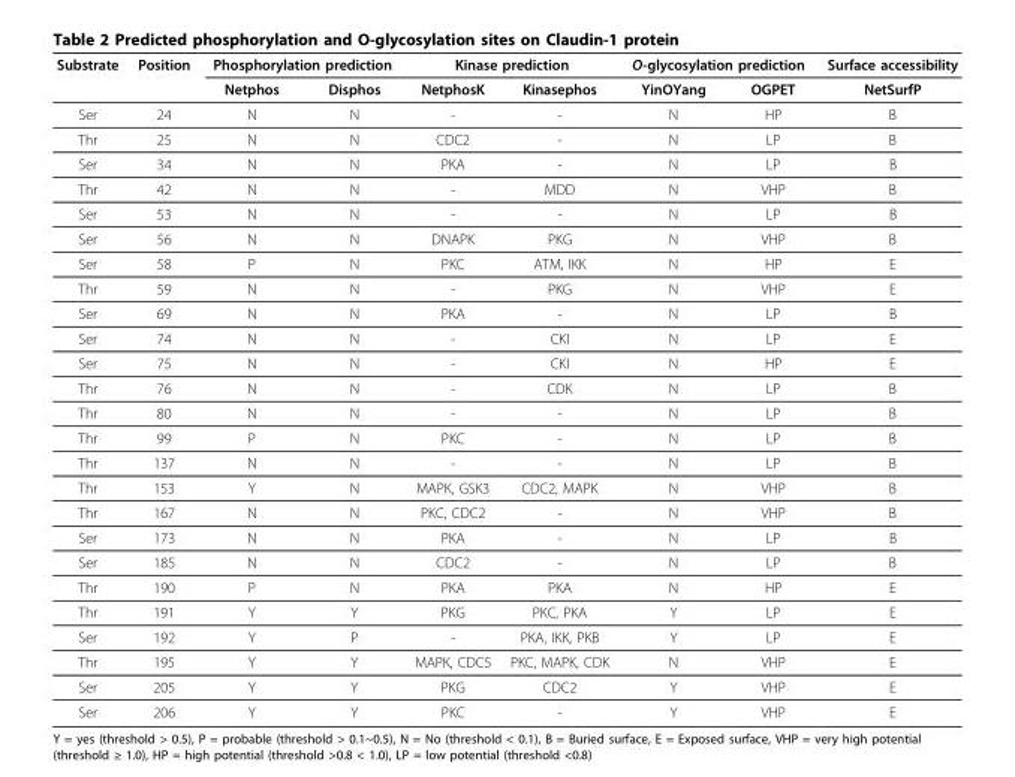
<table><thead><tr><td rowspan="2">Substrate</td><td rowspan="2">Position</td><td colspan="2">Phosphorylation prediction</td><td colspan="2">Kinase prediction</td><td colspan="2">O-glycosylation prediction</td><td rowspan="2">Surface accessibility NetSurfP</td></tr><tr><td>Netphos</td><td>Disphos</td><td>NetphosK</td><td>Kinasephos</td><td>YinOYang</td><td>OGPET</td></tr></thead><tbody><tr><td>Ser</td><td>24</td><td>N</td><td>N</td><td>-</td><td>-</td><td>N</td><td>HP</td><td>B</td></tr><tr><td>Thr</td><td>25</td><td>N</td><td>N</td><td>CDC2</td><td>-</td><td>N</td><td>LP</td><td>B</td></tr><tr><td>Ser</td><td>34</td><td>N</td><td>N</td><td>PKA</td><td>-</td><td>N</td><td>LP</td><td>B</td></tr><tr><td>Thr</td><td>42</td><td>N</td><td>N</td><td>-</td><td>MDD</td><td>N</td><td>VHP</td><td>B</td></tr><tr><td>Ser</td><td>53</td><td>N</td><td>N</td><td>-</td><td>-</td><td>N</td><td>LP</td><td>B</td></tr><tr><td>Ser</td><td>56</td><td>N</td><td>N</td><td>DNAPK</td><td>PKG</td><td>N</td><td>VHP</td><td>B</td></tr><tr><td>Ser</td><td>58</td><td>P</td><td>N</td><td>PKC</td><td>ATM, IKK</td><td>N</td><td>HP</td><td>E</td></tr><tr><td>Thr</td><td>59</td><td>N</td><td>N</td><td>-</td><td>PKG</td><td>N</td><td>VHP</td><td>E</td></tr><tr><td>Ser</td><td>69</td><td>N</td><td>N</td><td>PKA</td><td>-</td><td>N</td><td>LP</td><td>B</td></tr><tr><td>Ser</td><td>74</td><td>N</td><td>N</td><td>-</td><td>CKI</td><td>N</td><td>LP</td><td>E</td></tr><tr><td>Ser</td><td>75</td><td>N</td><td>N</td><td>-</td><td>CKI</td><td>N</td><td>HP</td><td>E</td></tr><tr><td>Thr</td><td>76</td><td>N</td><td>N</td><td>-</td><td>CDK</td><td>N</td><td>LP</td><td>B</td></tr><tr><td>Thr</td><td>80</td><td>N</td><td>N</td><td>-</td><td>-</td><td>N</td><td>LP</td><td>B</td></tr><tr><td>Thr</td><td>99</td><td>P</td><td>N</td><td>PKC</td><td>-</td><td>N</td><td>LP</td><td>B</td></tr><tr><td>Thr</td><td>137</td><td>N</td><td>N</td><td>-</td><td>-</td><td>N</td><td>LP</td><td>B</td></tr><tr><td>Thr</td><td>153</td><td>Y</td><td>N</td><td>MAPK, GSK3</td><td>CDC2, MAPK</td><td>N</td><td>VHP</td><td>B</td></tr><tr><td>Thr</td><td>167</td><td>N</td><td>N</td><td>PKC, CDC2</td><td>-</td><td>N</td><td>VHP</td><td>B</td></tr><tr><td>Ser</td><td>173</td><td>N</td><td>N</td><td>PKA</td><td>-</td><td>N</td><td>LP</td><td>B</td></tr><tr><td>Ser</td><td>185</td><td>N</td><td>N</td><td>CDC2</td><td>-</td><td>N</td><td>LP</td><td>B</td></tr><tr><td>Thr</td><td>190</td><td>P</td><td>N</td><td>PKA</td><td>PKA</td><td>N</td><td>HP</td><td>E</td></tr><tr><td>Thr</td><td>191</td><td>Y</td><td>Y</td><td>PKG</td><td>PKC, PKA</td><td>Y</td><td>LP</td><td>E</td></tr><tr><td>Ser</td><td>192</td><td>Y</td><td>P</td><td>-</td><td>PKA, IKK, PKB</td><td>Y</td><td>LP</td><td>E</td></tr><tr><td>Thr</td><td>195</td><td>Y</td><td>Y</td><td>MAPK, CDC5</td><td>PKC, MAPK, CDK</td><td>N</td><td>VHP</td><td>E</td></tr><tr><td>Ser</td><td>205</td><td>Y</td><td>Y</td><td>PKG</td><td>CDC2</td><td>Y</td><td>VHP</td><td>E</td></tr><tr><td>Ser</td><td>206</td><td>Y</td><td>Y</td><td>PKC</td><td>-</td><td>Y</td><td>VHP</td><td>E</td></tr></tbody></table>